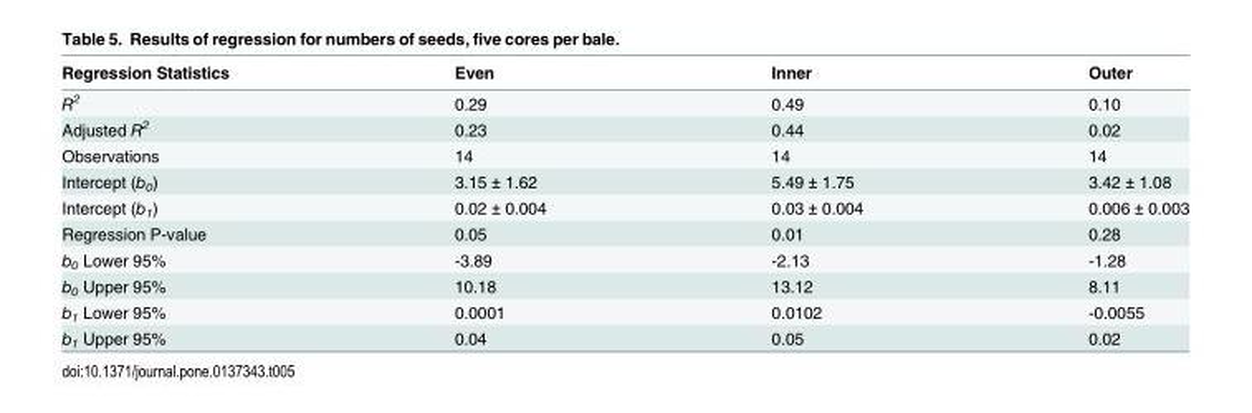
<table><thead><tr><td>Regression Statistics</td><td>Even</td><td>Inner</td><td>Outer</td></tr></thead><tbody><tr><td>R<sup>2</sup></td><td>0.29</td><td>0.49</td><td>0.10</td></tr><tr><td>Adjusted R<sup>2</sup></td><td>0.23</td><td>0.44</td><td>0.02</td></tr><tr><td>Observations</td><td>14</td><td>14</td><td>14</td></tr><tr><td>Intercept (b<sub>0</sub>)</td><td>3.15 ± 1.62</td><td>5.49 ± 1.75</td><td>3.42 ± 1.08</td></tr><tr><td>Intercept (b<sub>1</sub>)</td><td>0.02 ± 0.004</td><td>0.03 ± 0.004</td><td>0.006 ± 0.003</td></tr><tr><td>Regression P-value</td><td>0.05</td><td>0.01</td><td>0.28</td></tr><tr><td>b<sub>0</sub> Lower 95%</td><td>-3.89</td><td>-2.13</td><td>-1.28</td></tr><tr><td>b<sub>0</sub> Upper 95%</td><td>10.18</td><td>13.12</td><td>8.11</td></tr><tr><td>b<sub>1</sub> Lower 95%</td><td>0.0001</td><td>0.0102</td><td>-0.0055</td></tr><tr><td>b<sub>1</sub> Upper 95%</td><td>0.04</td><td>0.05</td><td>0.02</td></tr></tbody></table>